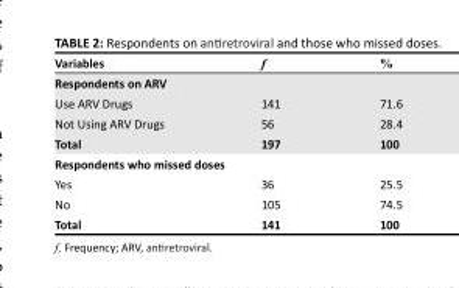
<table><thead><tr><td>Variables</td><td>f</td><td>%</td></tr></thead><tbody><tr><td colspan="3">Respondents on ARV</td></tr><tr><td>Use ARV Drugs</td><td>141</td><td>71.6</td></tr><tr><td>Not Using ARV Drugs</td><td>56</td><td>28.4</td></tr><tr><td>Total</td><td>197</td><td>100</td></tr><tr><td colspan="3">Respondents who missed doses</td></tr><tr><td>Yes</td><td>36</td><td>25.5</td></tr><tr><td>No</td><td>105</td><td>74.5</td></tr><tr><td>Total</td><td>141</td><td>100</td></tr></tbody></table>